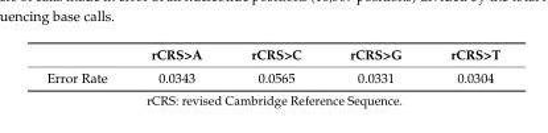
<table><thead><tr><td></td><td>rCRS&gt;A</td><td>rCRS&gt;C</td><td>rCRS&gt;G</td><td>rCRS&gt;T</td></tr></thead><tbody><tr><td>Error Rate</td><td>0.0343</td><td>0.0565</td><td>0.0331</td><td>0.0304</td></tr></tbody></table>